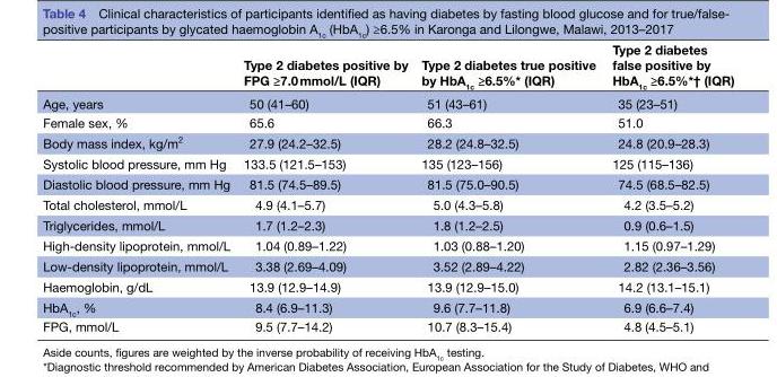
<table><thead><tr><td></td><td>Type 2 diabetes positive by FPG ≥7.0 mmol/L (IQR)</td><td>Type 2 diabetes true positive by HbA<sub>1c</sub> ≥6.5%* (IQR)</td><td>Type 2 diabetes false positive by HbA<sub>1c</sub> ≥6.5%*† (IQR)</td></tr></thead><tbody><tr><td>Age, years</td><td>50 (41–60)</td><td>51 (43–61)</td><td>35 (23–51)</td></tr><tr><td>Female sex, %</td><td>65.6</td><td>66.3</td><td>51.0</td></tr><tr><td>Body mass index, kg/m<sup>2</sup></td><td>27.9 (24.2–32.5)</td><td>28.2 (24.8–32.5)</td><td>24.8 (20.9–28.3)</td></tr><tr><td>Systolic blood pressure, mm Hg</td><td>133.5 (121.5–153)</td><td>135 (123–156)</td><td>125 (115–136)</td></tr><tr><td>Diastolic blood pressure, mm Hg</td><td>81.5 (74.5–89.5)</td><td>81.5 (75.0–90.5)</td><td>74.5 (68.5–82.5)</td></tr><tr><td>Total cholesterol, mmol/L</td><td>4.9 (4.1–5.7)</td><td>5.0 (4.3–5.8)</td><td>4.2 (3.5–5.2)</td></tr><tr><td>Triglycerides, mmol/L</td><td>1.7 (1.2–2.3)</td><td>1.8 (1.2–2.5)</td><td>0.9 (0.6–1.5)</td></tr><tr><td>High-density lipoprotein, mmol/L</td><td>1.04 (0.89–1.22)</td><td>1.03 (0.88–1.20)</td><td>1.15 (0.97–1.29)</td></tr><tr><td>Low-density lipoprotein, mmol/L</td><td>3.38 (2.69–4.09)</td><td>3.52 (2.89–4.22)</td><td>2.82 (2.36–3.56)</td></tr><tr><td>Haemoglobin, g/dL</td><td>13.9 (12.9–14.9)</td><td>13.9 (12.9–15.0)</td><td>14.2 (13.1–15.1)</td></tr><tr><td>HbA<sub>1c</sub>, %</td><td>8.4 (6.9–11.3)</td><td>9.6 (7.7–11.8)</td><td>6.9 (6.6–7.4)</td></tr><tr><td>FPG, mmol/L</td><td>9.5 (7.7–14.2)</td><td>10.7 (8.3–15.4)</td><td>4.8 (4.5–5.1)</td></tr></tbody></table>